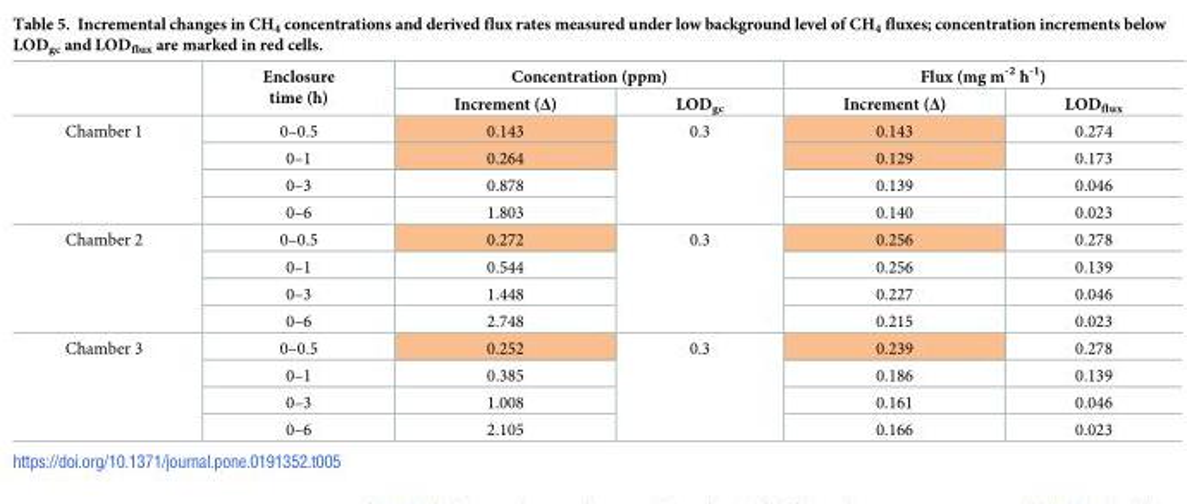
<table><thead><tr><td rowspan="2"></td><td rowspan="2">Enclosure time (h)</td><td colspan="2">Concentration (ppm)</td><td colspan="2">Flux (mg m<sup>-2</sup> h<sup>-1</sup>)</td></tr><tr><td>Increment (Δ)</td><td>LOD<sub>gc</sub></td><td>Increment (Δ)</td><td>LOD<sub>flux</sub></td></tr></thead><tbody><tr><td rowspan="4">Chamber 1</td><td>0–0.5</td><td>0.143</td><td rowspan="4">0.3</td><td>0.143</td><td>0.274</td></tr><tr><td>0–1</td><td>0.264</td><td>0.129</td><td>0.173</td></tr><tr><td>0–3</td><td>0.878</td><td>0.139</td><td>0.046</td></tr><tr><td>0–6</td><td>1.803</td><td>0.140</td><td>0.023</td></tr><tr><td rowspan="4">Chamber 2</td><td>0–0.5</td><td>0.272</td><td rowspan="4">0.3</td><td>0.256</td><td>0.278</td></tr><tr><td>0–1</td><td>0.544</td><td>0.256</td><td>0.139</td></tr><tr><td>0–3</td><td>1.448</td><td>0.227</td><td>0.046</td></tr><tr><td>0–6</td><td>2.748</td><td>0.215</td><td>0.023</td></tr><tr><td rowspan="4">Chamber 3</td><td>0–0.5</td><td>0.252</td><td rowspan="4">0.3</td><td>0.239</td><td>0.278</td></tr><tr><td>0–1</td><td>0.385</td><td>0.186</td><td>0.139</td></tr><tr><td>0–3</td><td>1.008</td><td>0.161</td><td>0.046</td></tr><tr><td>0–6</td><td>2.105</td><td>0.166</td><td>0.023</td></tr></tbody></table>